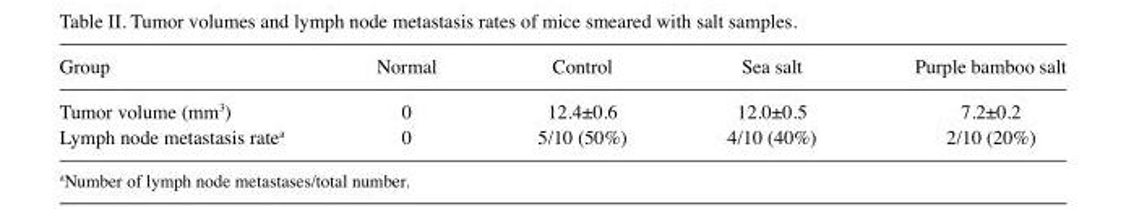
<table><thead><tr><td>Group</td><td>Normal</td><td>Control</td><td>Sea salt</td><td>Purple bamboo salt</td></tr></thead><tbody><tr><td>Tumor volume (mm<sup>3</sup>)</td><td>0</td><td>12.4±0.6</td><td>12.0±0.5</td><td>7.2±0.2</td></tr><tr><td>Lymph node metastasis rate<sup>a</sup></td><td>0</td><td>5/10 (50%)</td><td>4/10 (40%)</td><td>2/10 (20%)</td></tr></tbody></table>